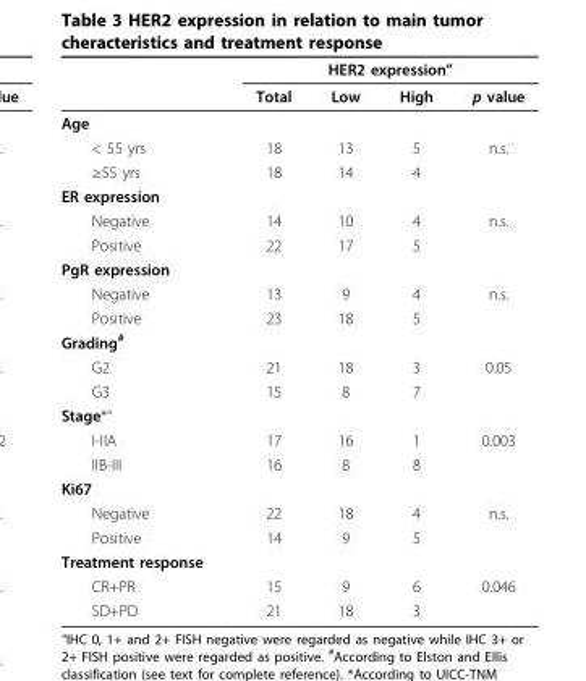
<table><thead><tr><td rowspan="2"></td><td colspan="4">HER2 expression”</td></tr><tr><td>Total</td><td>Low</td><td>High</td><td>p value</td></tr></thead><tbody><tr><td colspan="5">Age</td></tr><tr><td>&lt; 55 yrs</td><td>18</td><td>13</td><td>5</td><td>n.s.</td></tr><tr><td>≥55 yrs</td><td>18</td><td>14</td><td>4</td><td></td></tr><tr><td colspan="5">ER expression</td></tr><tr><td>Negative</td><td>14</td><td>10</td><td>4</td><td>n.s.</td></tr><tr><td>Positive</td><td>22</td><td>17</td><td>5</td><td></td></tr><tr><td colspan="5">PgR expression</td></tr><tr><td>Negative</td><td>13</td><td>9</td><td>4</td><td>n.s.</td></tr><tr><td>Positive</td><td>23</td><td>18</td><td>5</td><td></td></tr><tr><td colspan="5">Grading<sup>#</sup></td></tr><tr><td>G2</td><td>21</td><td>18</td><td>3</td><td>0.05</td></tr><tr><td>G3</td><td>15</td><td>8</td><td>7</td><td></td></tr><tr><td colspan="5">Stage*°</td></tr><tr><td>I-IIA</td><td>17</td><td>16</td><td>1</td><td>0.003</td></tr><tr><td>IIB-III</td><td>16</td><td>8</td><td>8</td><td></td></tr><tr><td colspan="5">Ki67</td></tr><tr><td>Negative</td><td>22</td><td>18</td><td>4</td><td>n.s.</td></tr><tr><td>Positive</td><td>14</td><td>9</td><td>5</td><td></td></tr><tr><td colspan="5">Treatment response</td></tr><tr><td>CR+PR</td><td>15</td><td>9</td><td>6</td><td>0.046</td></tr><tr><td>SD+PD</td><td>21</td><td>18</td><td>3</td><td></td></tr></tbody></table>